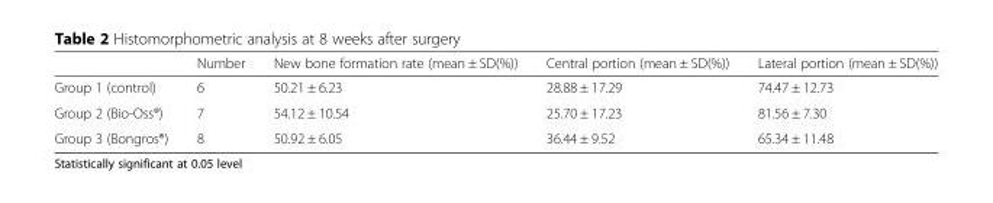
<table><thead><tr><td></td><td>Number</td><td>New bone formation rate (mean ± SD(%))</td><td>Central portion (mean ± SD(%))</td><td>Lateral portion (mean ± SD(%))</td></tr></thead><tbody><tr><td>Group 1 (control)</td><td>6</td><td>50.21 ± 6.23</td><td>28.88 ± 17.29</td><td>74.47 ± 12.73</td></tr><tr><td>Group 2 (Bio-Oss®)</td><td>7</td><td>54.12 ± 10.54</td><td>25.70 ± 17.23</td><td>81.56 ± 7.30</td></tr><tr><td>Group 3 (Bongros®)</td><td>8</td><td>50.92 ± 6.05</td><td>36.44 ± 9.52</td><td>65.34 ± 11.48</td></tr></tbody></table>